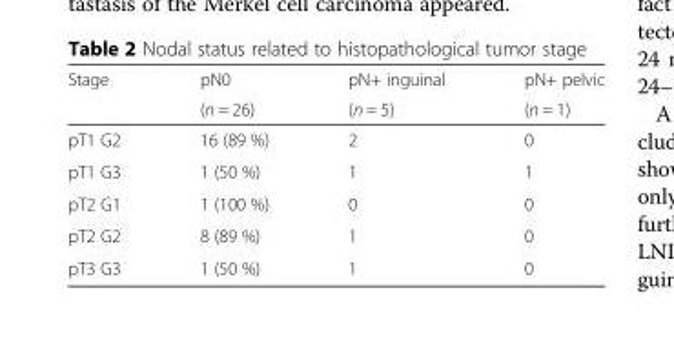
<table><thead><tr><td rowspan="2">Stage</td><td rowspan="2">pN0 (n = 26)</td><td rowspan="2">pN+ inguinal (n = 5)</td><td rowspan="2">pN+ pelvic (n = 1)</td></tr><tr></tr></thead><tbody><tr><td>pT1 G2</td><td>16 (89 %)</td><td>2</td><td>0</td></tr><tr><td>pT1 G3</td><td>1 (50 %)</td><td>1</td><td>1</td></tr><tr><td>pT2 G1</td><td>1 (100 %)</td><td>0</td><td>0</td></tr><tr><td>pT2 G2</td><td>8 (89 %)</td><td>1</td><td>0</td></tr><tr><td>pT3 G3</td><td>1 (50 %)</td><td>1</td><td>0</td></tr></tbody></table>